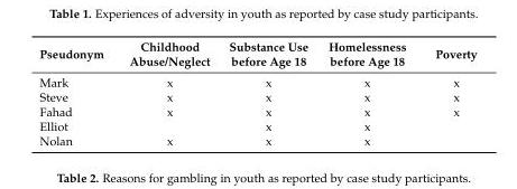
<table><thead><tr><td>Pseudonym</td><td>Childhood Abuse/Neglect</td><td>Substance Use before Age 18</td><td>Homelessness before Age 18</td><td>Poverty</td></tr></thead><tbody><tr><td>Mark</td><td>x</td><td>x</td><td>x</td><td>x</td></tr><tr><td>Steve</td><td>x</td><td>x</td><td>x</td><td>x</td></tr><tr><td>Fahad</td><td>x</td><td>x</td><td>x</td><td>x</td></tr><tr><td>Elliot</td><td></td><td>x</td><td>x</td><td></td></tr><tr><td>Nolan</td><td>x</td><td>x</td><td>x</td><td></td></tr></tbody></table>